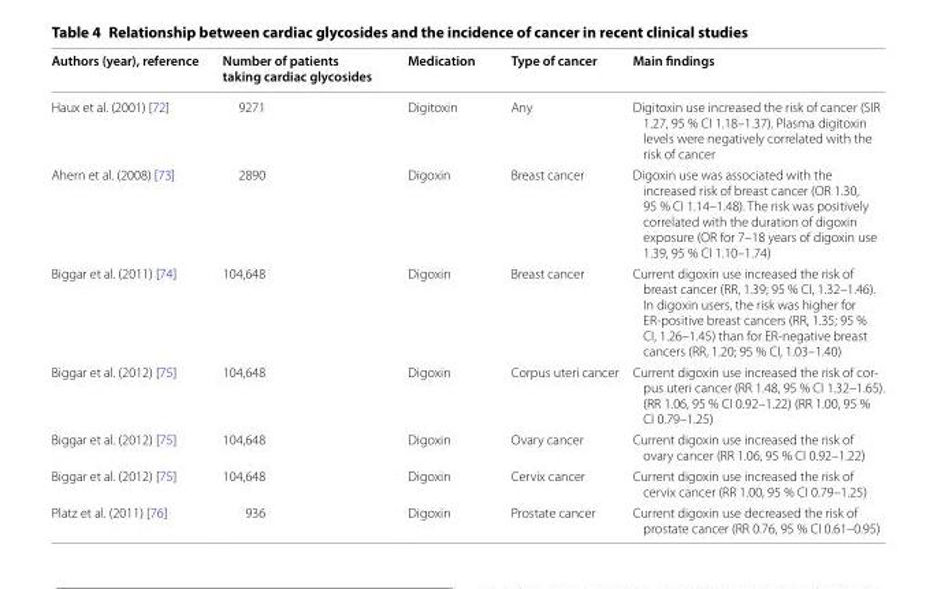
<table><thead><tr><td>Authors (year), reference</td><td>Number of patients taking cardiac glycosides</td><td>Medication</td><td>Type of cancer</td><td>Main findings</td></tr></thead><tbody><tr><td>Haux et al. (2001) [72]</td><td>9271</td><td>Digitoxin</td><td>Any</td><td>Digitoxin use increased the risk of cancer (SIR 1.27, 95 % CI 1.18–1.37). Plasma digitoxin levels were negatively correlated with the risk of cancer</td></tr><tr><td>Ahern et al. (2008) [73]</td><td>2890</td><td>Digoxin</td><td>Breast cancer</td><td>Digoxin use was associated with the increased risk of breast cancer (OR 1.30, 95 % CI 1.14–1.48). The risk was positively correlated with the duration of digoxin exposure (OR for 7–18 years of digoxin use 1.39, 95 % CI 1.10–1.74)</td></tr><tr><td>Biggar et al. (2011) [74]</td><td>104,648</td><td>Digoxin</td><td>Breast cancer</td><td>Current digoxin use increased the risk of breast cancer (RR, 1.39; 95 % CI, 1.32–1.46). In digoxin users, the risk was higher for ER-positive breast cancers (RR, 1.35; 95 % CI, 1.26–1.45) than for ER-negative breast cancers (RR, 1.20; 95 % CI, 1.03–1.40)</td></tr><tr><td>Biggar et al. (2012) [75]</td><td>104,648</td><td>Digoxin</td><td>Corpus uteri cancer</td><td>Current digoxin use increased the risk of cor- pus uteri cancer (RR 1.48, 95 % CI 1.32–1.65). (RR 1.06, 95 % CI 0.92–1.22) (RR 1.00, 95 % CI 0.79–1.25)</td></tr><tr><td>Biggar et al. (2012) [75]</td><td>104,648</td><td>Digoxin</td><td>Ovary cancer</td><td>Current digoxin use increased the risk of ovary cancer (RR 1.06, 95 % CI 0.92–1.22)</td></tr><tr><td>Biggar et al. (2012) [75]</td><td>104,648</td><td>Digoxin</td><td>Cervix cancer</td><td>Current digoxin use increased the risk of cervix cancer (RR 1.00, 95 % CI 0.79–1.25)</td></tr><tr><td>Platz et al. (2011) [76]</td><td>936</td><td>Digoxin</td><td>Prostate cancer</td><td>Current digoxin use decreased the risk of prostate cancer (RR 0.76, 95 % CI 0.61–0.95)</td></tr></tbody></table>